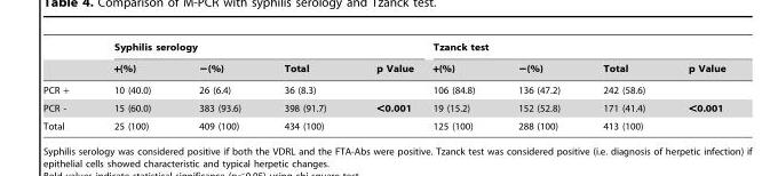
<table><thead><tr><td rowspan="2"></td><td colspan="4">Syphilis serology</td><td colspan="4">Tzanck test</td></tr><tr><td>+(%)</td><td>−(%)</td><td>Total</td><td>p Value</td><td>+(%)</td><td>−(%)</td><td>Total</td><td>p Value</td></tr></thead><tbody><tr><td>PCR +</td><td>10 (40.0)</td><td>26 (6.4)</td><td>36 (8.3)</td><td></td><td>106 (84.8)</td><td>136 (47.2)</td><td>242 (58.6)</td><td></td></tr><tr><td>PCR -</td><td>15 (60.0)</td><td>383 (93.6)</td><td>398 (91.7)</td><td>&lt;0.001</td><td>19 (15.2)</td><td>152 (52.8)</td><td>171 (41.4)</td><td>&lt;0.001</td></tr><tr><td>Total</td><td>25 (100)</td><td>409 (100)</td><td>434 (100)</td><td></td><td>125 (100)</td><td>288 (100)</td><td>413 (100)</td><td></td></tr></tbody></table>